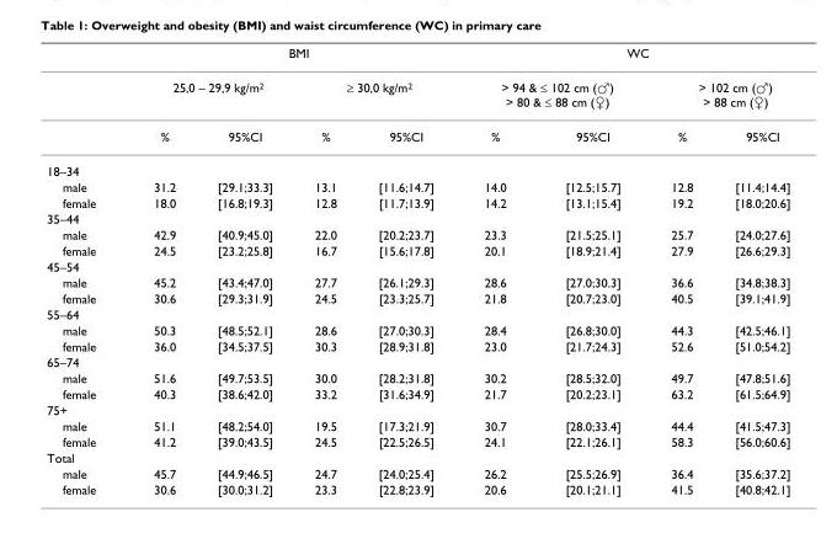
<table><thead><tr><td rowspan="3"></td><td colspan="4">BMI</td><td colspan="4">WC</td></tr><tr><td colspan="2">25,0 – 29,9 kg/m<sup>2</sup></td><td colspan="2">≥ 30,0 kg/m<sup>2</sup></td><td colspan="2">&gt; 94 &amp; ≤ 102 cm (♂) &gt; 80 &amp; ≤ 88 cm (♀)</td><td colspan="2">&gt; 102 cm (♂) &gt; 88 cm (♀)</td></tr><tr><td>%</td><td>95%CI</td><td>%</td><td>95%CI</td><td>%</td><td>95%CI</td><td>%</td><td>95%CI</td></tr></thead><tbody><tr><td colspan="9">18–34</td></tr><tr><td>male</td><td>31.2</td><td>[29.1;33.3]</td><td>13.1</td><td>[11.6;14.7]</td><td>14.0</td><td>[12.5;15.7]</td><td>12.8</td><td>[11.4;14.4]</td></tr><tr><td>female</td><td>18.0</td><td>[16.8;19.3]</td><td>12.8</td><td>[11.7;13.9]</td><td>14.2</td><td>[13.1;15.4]</td><td>19.2</td><td>[18.0;20.6]</td></tr><tr><td colspan="9">35–44</td></tr><tr><td>male</td><td>42.9</td><td>[40.9;45.0]</td><td>22.0</td><td>[20.2;23.7]</td><td>23.3</td><td>[21.5;25.1]</td><td>25.7</td><td>[24.0;27.6]</td></tr><tr><td>female</td><td>24.5</td><td>[23.2;25.8]</td><td>16.7</td><td>[15.6;17.8]</td><td>20.1</td><td>[18.9;21.4]</td><td>27.9</td><td>[26.6;29.3]</td></tr><tr><td colspan="9">45–54</td></tr><tr><td>male</td><td>45.2</td><td>[43.4;47.0]</td><td>27.7</td><td>[26.1;29.3]</td><td>28.6</td><td>[27.0;30.3]</td><td>36.6</td><td>[34.8;38.3]</td></tr><tr><td>female</td><td>30.6</td><td>[29.3;31.9]</td><td>24.5</td><td>[23.3;25.7]</td><td>21.8</td><td>[20.7;23.0]</td><td>40.5</td><td>[39.1;41.9]</td></tr><tr><td colspan="9">55–64</td></tr><tr><td>male</td><td>50.3</td><td>[48.5;52.1]</td><td>28.6</td><td>[27.0;30.3]</td><td>28.4</td><td>[26.8;30.0]</td><td>44.3</td><td>[42.5;46.1]</td></tr><tr><td>female</td><td>36.0</td><td>[34.5;37.5]</td><td>30.3</td><td>[28.9;31.8]</td><td>23.0</td><td>[21.7;24.3]</td><td>52.6</td><td>[51.0;54.2]</td></tr><tr><td colspan="9">65–74</td></tr><tr><td>male</td><td>51.6</td><td>[49.7;53.5]</td><td>30.0</td><td>[28.2;31.8]</td><td>30.2</td><td>[28.5;32.0]</td><td>49.7</td><td>[47.8;51.6]</td></tr><tr><td>female</td><td>40.3</td><td>[38.6;42.0]</td><td>33.2</td><td>[31.6;34.9]</td><td>21.7</td><td>[20.2;23.1]</td><td>63.2</td><td>[61.5;64.9]</td></tr><tr><td colspan="9">75+</td></tr><tr><td>male</td><td>51.1</td><td>[48.2;54.0]</td><td>19.5</td><td>[17.3;21.9]</td><td>30.7</td><td>[28.0;33.4]</td><td>44.4</td><td>[41.5;47.3]</td></tr><tr><td>female</td><td>41.2</td><td>[39.0;43.5]</td><td>24.5</td><td>[22.5;26.5]</td><td>24.1</td><td>[22.1;26.1]</td><td>58.3</td><td>[56.0;60.6]</td></tr><tr><td colspan="9">Total</td></tr><tr><td>male</td><td>45.7</td><td>[44.9;46.5]</td><td>24.7</td><td>[24.0;25.4]</td><td>26.2</td><td>[25.5;26.9]</td><td>36.4</td><td>[35.6;37.2]</td></tr><tr><td>female</td><td>30.6</td><td>[30.0;31.2]</td><td>23.3</td><td>[22.8;23.9]</td><td>20.6</td><td>[20.1;21.1]</td><td>41.5</td><td>[40.8;42.1]</td></tr></tbody></table>